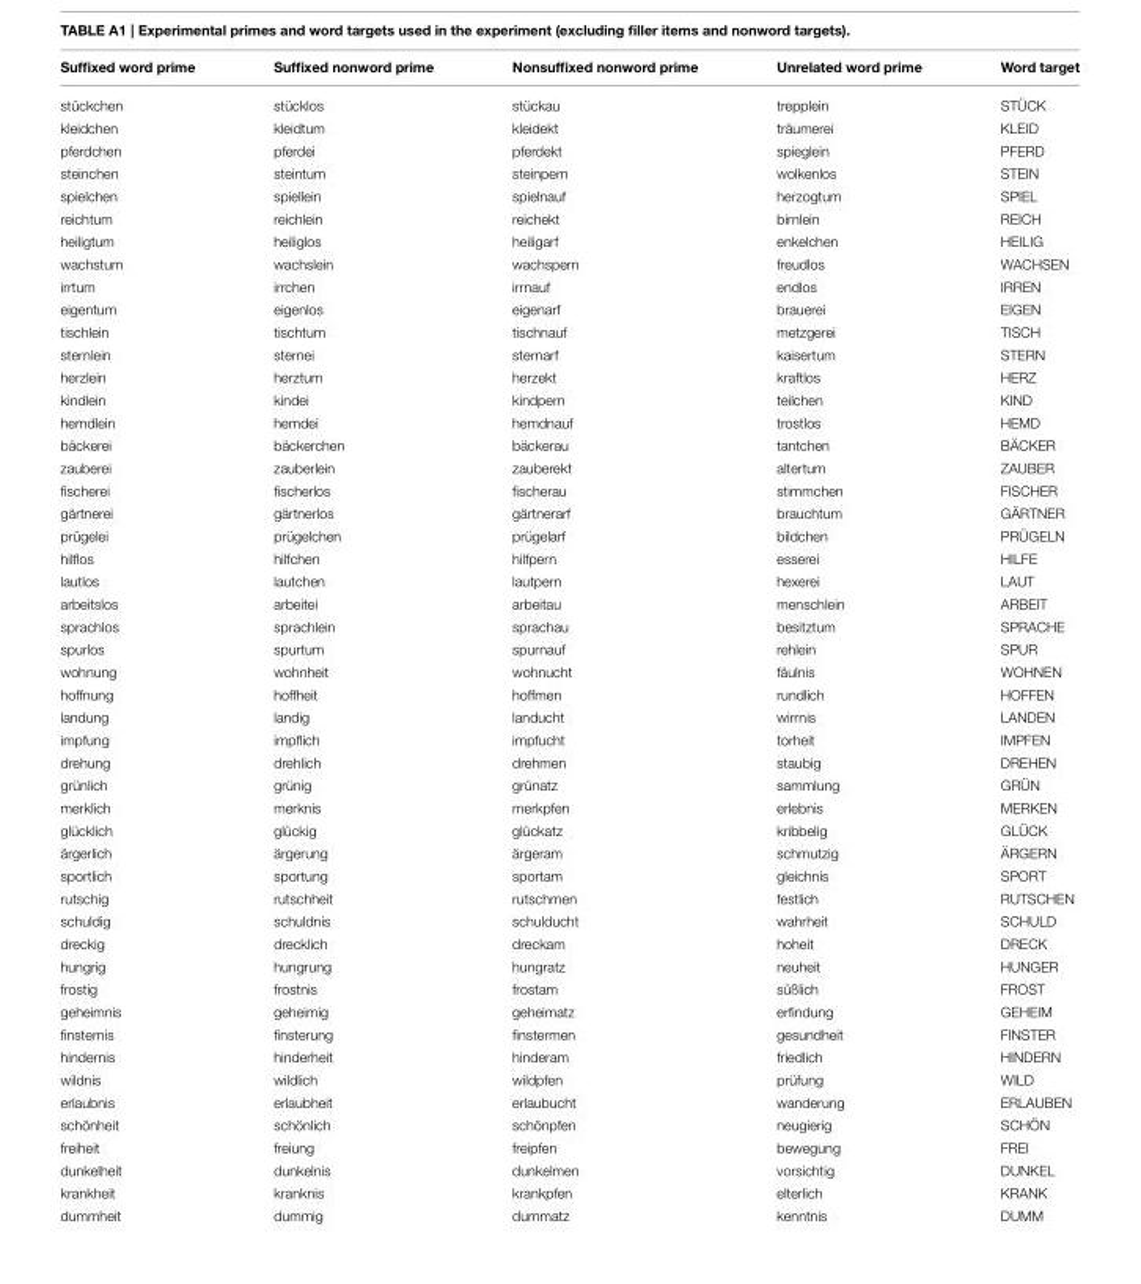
<table><thead><tr><td>Suffixed word prime</td><td>Suffixed nonword prime</td><td>Nonsuffixed nonword prime</td><td>Unrelated word prime</td><td>Word target</td></tr></thead><tbody><tr><td>stückchen</td><td>stücklos</td><td>stückau</td><td>trepplein</td><td>STÜCK</td></tr><tr><td>kleidchen</td><td>kleidtum</td><td>kleidekt</td><td>träumerei</td><td>KLEID</td></tr><tr><td>pferdchen</td><td>pferdei</td><td>pferdekt</td><td>spieglein</td><td>PFERD</td></tr><tr><td>steinchen</td><td>steintum</td><td>steinpern</td><td>wolkenlos</td><td>STEIN</td></tr><tr><td>spielchen</td><td>spiellein</td><td>spielnauf</td><td>herzogtum</td><td>SPIEL</td></tr><tr><td>reichtum</td><td>reichlein</td><td>reichekt</td><td>birnlein</td><td>REICH</td></tr><tr><td>heiligtum</td><td>heiliglos</td><td>heiligarf</td><td>enkelchen</td><td>HEILIG</td></tr><tr><td>wachstum</td><td>wachslein</td><td>wachspern</td><td>freudlos</td><td>WACHSEN</td></tr><tr><td>irrtum</td><td>irrchen</td><td>irrnauf</td><td>endlos</td><td>IRREN</td></tr><tr><td>eigentum</td><td>eigenlos</td><td>eigenarf</td><td>brauerei</td><td>EIGEN</td></tr><tr><td>tischlein</td><td>tischtum</td><td>tischnauf</td><td>metzgerei</td><td>TISCH</td></tr><tr><td>sternlein</td><td>sternei</td><td>sternarf</td><td>kaisertum</td><td>STERN</td></tr><tr><td>herzlein</td><td>herztum</td><td>herzekt</td><td>kraftlos</td><td>HERZ</td></tr><tr><td>kindlein</td><td>kindei</td><td>kindpern</td><td>teilchen</td><td>KIND</td></tr><tr><td>hemdlein</td><td>hemdei</td><td>hemdnauf</td><td>trostlos</td><td>HEMD</td></tr><tr><td>bäckerei</td><td>bäckerchen</td><td>bäckerau</td><td>tantchen</td><td>BÄCKER</td></tr><tr><td>zauberei</td><td>zauberlein</td><td>zauberekt</td><td>altertum</td><td>ZAUBER</td></tr><tr><td>fischerei</td><td>fischerlos</td><td>fischerau</td><td>stimmchen</td><td>FISCHER</td></tr><tr><td>gärtnerei</td><td>gärtnerlos</td><td>gärtnerarf</td><td>brauchtum</td><td>GÄRTNER</td></tr><tr><td>prügelei</td><td>prügelchen</td><td>prügelarf</td><td>bildchen</td><td>PRÜGELN</td></tr><tr><td>hilflos</td><td>hilfchen</td><td>hilfpern</td><td>esserei</td><td>HILFE</td></tr><tr><td>lautlos</td><td>lautchen</td><td>lautpern</td><td>hexerei</td><td>LAUT</td></tr><tr><td>arbeitslos</td><td>arbeitei</td><td>arbeitau</td><td>menschlein</td><td>ARBEIT</td></tr><tr><td>sprachlos</td><td>sprachlein</td><td>sprachau</td><td>besitztum</td><td>SPRACHE</td></tr><tr><td>spurlos</td><td>spurtum</td><td>spurnauf</td><td>rehlein</td><td>SPUR</td></tr><tr><td>wohnung</td><td>wohnheit</td><td>wohnucht</td><td>fäulnis</td><td>WOHNEN</td></tr><tr><td>hoffnung</td><td>hoffheit</td><td>hoffmen</td><td>rundlich</td><td>HOFFEN</td></tr><tr><td>landung</td><td>landig</td><td>landucht</td><td>wirrnis</td><td>LANDEN</td></tr><tr><td>impfung</td><td>impflich</td><td>impfucht</td><td>torheit</td><td>IMPFEN</td></tr><tr><td>drehung</td><td>drehlich</td><td>drehmen</td><td>staubig</td><td>DREHEN</td></tr><tr><td>grünlich</td><td>grünig</td><td>grünatz</td><td>sammlung</td><td>GRÜN</td></tr><tr><td>merklich</td><td>merknis</td><td>merkpfen</td><td>erlebnis</td><td>MERKEN</td></tr><tr><td>glücklich</td><td>glückig</td><td>glückatz</td><td>kribbelig</td><td>GLÜCK</td></tr><tr><td>ärgerlich</td><td>ärgerung</td><td>ärgeram</td><td>schmutzig</td><td>ÄRGERN</td></tr><tr><td>sportlich</td><td>sportung</td><td>sportam</td><td>gleichnis</td><td>SPORT</td></tr><tr><td>rutschig</td><td>rutschheit</td><td>rutschmen</td><td>festlich</td><td>RUTSCHEN</td></tr><tr><td>schuldig</td><td>schuldnis</td><td>schulducht</td><td>wahrheit</td><td>SCHULD</td></tr><tr><td>dreckig</td><td>drecklich</td><td>dreckam</td><td>hoheit</td><td>DRECK</td></tr><tr><td>hungrig</td><td>hungrung</td><td>hungratz</td><td>neuheit</td><td>HUNGER</td></tr><tr><td>frostig</td><td>frostnis</td><td>frostam</td><td>süßlich</td><td>FROST</td></tr><tr><td>geheimnis</td><td>geheimig</td><td>geheimatz</td><td>erfindung</td><td>GEHEIM</td></tr><tr><td>finsternis</td><td>finsterung</td><td>finstermen</td><td>gesundheit</td><td>FINSTER</td></tr><tr><td>hindernis</td><td>hinderheit</td><td>hinderam</td><td>friedlich</td><td>HINDERN</td></tr><tr><td>wildnis</td><td>wildlich</td><td>wildpfen</td><td>prüfung</td><td>WILD</td></tr><tr><td>erlaubnis</td><td>erlaubheit</td><td>erlaubucht</td><td>wanderung</td><td>ERLAUBEN</td></tr><tr><td>schönheit</td><td>schönlich</td><td>schönpfen</td><td>neugierig</td><td>SCHÖN</td></tr><tr><td>freiheit</td><td>freiung</td><td>freipfen</td><td>bewegung</td><td>FREI</td></tr><tr><td>dunkelheit</td><td>dunkelnis</td><td>dunkelmen</td><td>vorsichtig</td><td>DUNKEL</td></tr><tr><td>krankheit</td><td>kranknis</td><td>krankpfen</td><td>elterlich</td><td>KRANK</td></tr><tr><td>dummheit</td><td>dummig</td><td>dummatz</td><td>kenntnis</td><td>DUMM</td></tr></tbody></table>